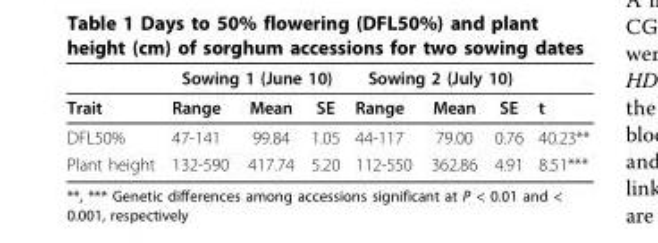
<table><thead><tr><td rowspan="2">Trait</td><td colspan="3">Sowing 1 (June 10)</td><td colspan="3">Sowing 2 (July 10)</td><td rowspan="2">t</td></tr><tr><td>Range</td><td>Mean</td><td>SE</td><td>Range</td><td>Mean</td><td>SE</td></tr></thead><tbody><tr><td>DFL50%</td><td>47-141</td><td>99.84</td><td>1.05</td><td>44-117</td><td>79.00</td><td>0.76</td><td>40.23**</td></tr><tr><td>Plant height</td><td>132-590</td><td>417.74</td><td>5.20</td><td>112-550</td><td>362.86</td><td>4.91</td><td>8.51***</td></tr></tbody></table>